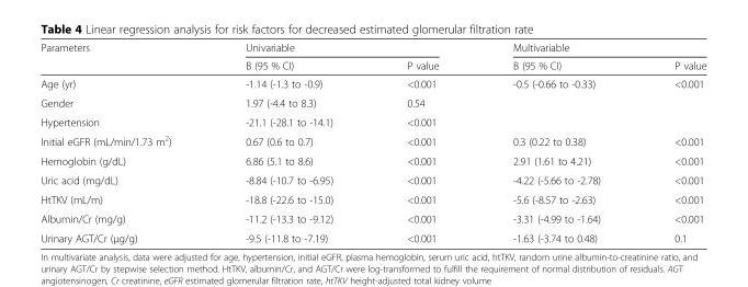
<table><thead><tr><td rowspan="2">Parameters</td><td colspan="2">Univariable</td><td colspan="2">Multivariable</td></tr><tr><td>B (95 % CI)</td><td>P value</td><td>B (95 % CI)</td><td>P value</td></tr></thead><tbody><tr><td>Age (yr)</td><td>-1.14 (-1.3 to -0.9)</td><td>&lt;0.001</td><td>-0.5 (-0.66 to -0.33)</td><td>&lt;0.001</td></tr><tr><td>Gender</td><td>1.97 (-4.4 to 8.3)</td><td>0.54</td><td></td><td></td></tr><tr><td>Hypertension</td><td>-21.1 (-28.1 to -14.1)</td><td>&lt;0.001</td><td></td><td></td></tr><tr><td>Initial eGFR (mL/min/1.73 m<sup>2</sup>)</td><td>0.67 (0.6 to 0.7)</td><td>&lt;0.001</td><td>0.3 (0.22 to 0.38)</td><td>&lt;0.001</td></tr><tr><td>Hemoglobin (g/dL)</td><td>6.86 (5.1 to 8.6)</td><td>&lt;0.001</td><td>2.91 (1.61 to 4.21)</td><td>&lt;0.001</td></tr><tr><td>Uric acid (mg/dL)</td><td>-8.84 (-10.7 to -6.95)</td><td>&lt;0.001</td><td>-4.22 (-5.66 to -2.78)</td><td>&lt;0.001</td></tr><tr><td>HtTKV (mL/m)</td><td>-18.8 (-22.6 to -15.0)</td><td>&lt;0.001</td><td>-5.6 (-8.57 to -2.63)</td><td>&lt;0.001</td></tr><tr><td>Albumin/Cr (mg/g)</td><td>-11.2 (-13.3 to -9.12)</td><td>&lt;0.001</td><td>-3.31 (-4.99 to -1.64)</td><td>&lt;0.001</td></tr><tr><td>Urinary AGT/Cr (μg/g)</td><td>-9.5 (-11.8 to -7.19)</td><td>&lt;0.001</td><td>-1.63 (-3.74 to 0.48)</td><td>0.1</td></tr></tbody></table>